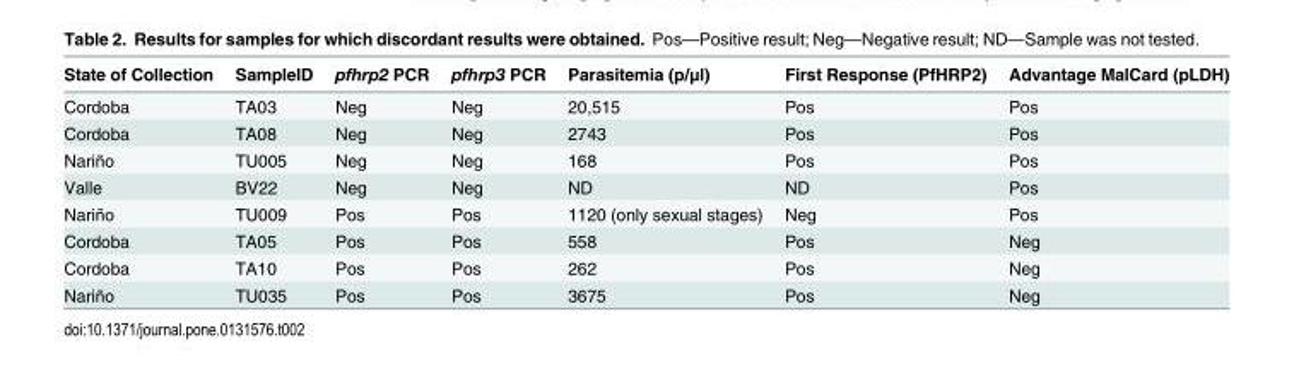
<table><thead><tr><td>State of Collection</td><td>SampleID</td><td>pfhrp2 PCR</td><td>pfhrp3 PCR</td><td>Parasitemia (p/μl)</td><td>First Response (PfHRP2)</td><td>Advantage MalCard (pLDH)</td></tr></thead><tbody><tr><td>Cordoba</td><td>TA03</td><td>Neg</td><td>Neg</td><td>20,515</td><td>Pos</td><td>Pos</td></tr><tr><td>Cordoba</td><td>TA08</td><td>Neg</td><td>Neg</td><td>2743</td><td>Pos</td><td>Pos</td></tr><tr><td>Nariño</td><td>TU005</td><td>Neg</td><td>Neg</td><td>168</td><td>Pos</td><td>Pos</td></tr><tr><td>Valle</td><td>BV22</td><td>Neg</td><td>Neg</td><td>ND</td><td>ND</td><td>Pos</td></tr><tr><td>Nariño</td><td>TU009</td><td>Pos</td><td>Pos</td><td>1120 (only sexual stages)</td><td>Neg</td><td>Pos</td></tr><tr><td>Cordoba</td><td>TA05</td><td>Pos</td><td>Pos</td><td>558</td><td>Pos</td><td>Neg</td></tr><tr><td>Cordoba</td><td>TA10</td><td>Pos</td><td>Pos</td><td>262</td><td>Pos</td><td>Neg</td></tr><tr><td>Nariño</td><td>TU035</td><td>Pos</td><td>Pos</td><td>3675</td><td>Pos</td><td>Neg</td></tr></tbody></table>